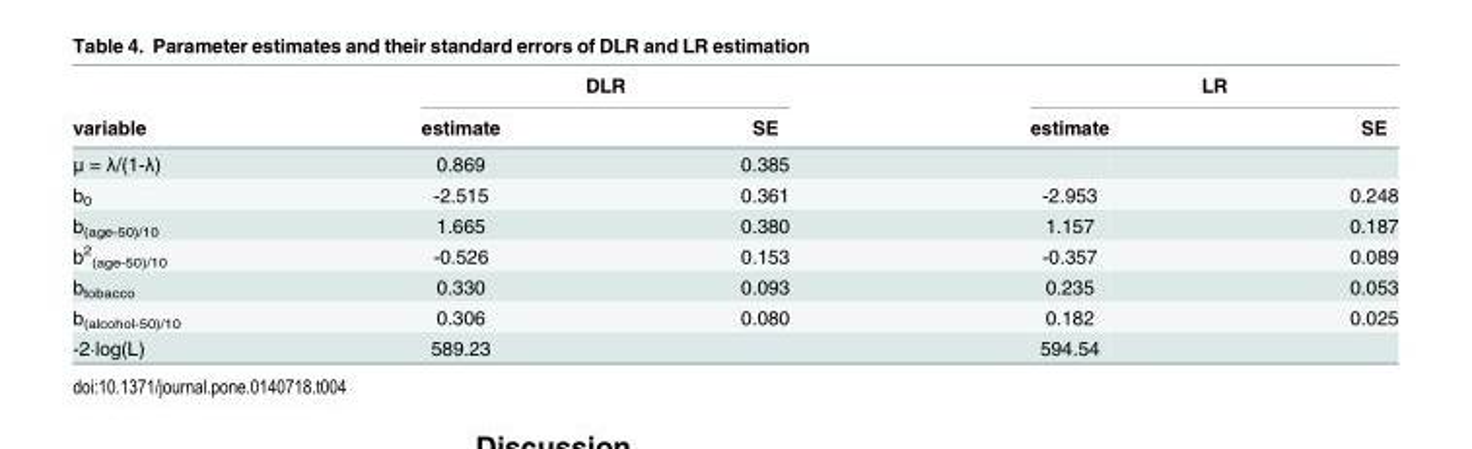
<table><thead><tr><td rowspan="2">variable</td><td colspan="2">DLR</td><td colspan="2">LR</td></tr><tr><td>estimate</td><td>SE</td><td>estimate</td><td>SE</td></tr></thead><tbody><tr><td>μ = λ/(1-λ)</td><td>0.869</td><td>0.385</td><td></td><td></td></tr><tr><td>b<sub>0</sub></td><td>-2.515</td><td>0.361</td><td>-2.953</td><td>0.248</td></tr><tr><td>b<sub>(age-50)/10</sub></td><td>1.665</td><td>0.380</td><td>1.157</td><td>0.187</td></tr><tr><td>b<sup>2</sup> <sub>(age-50)/10</sub></td><td>-0.526</td><td>0.153</td><td>-0.357</td><td>0.089</td></tr><tr><td>b<sub>tobacco</sub></td><td>0.330</td><td>0.093</td><td>0.235</td><td>0.053</td></tr><tr><td>b<sub>(alcohol-50)/10</sub></td><td>0.306</td><td>0.080</td><td>0.182</td><td>0.025</td></tr><tr><td>-2∙log(L)</td><td>589.23</td><td></td><td>594.54</td><td></td></tr></tbody></table>